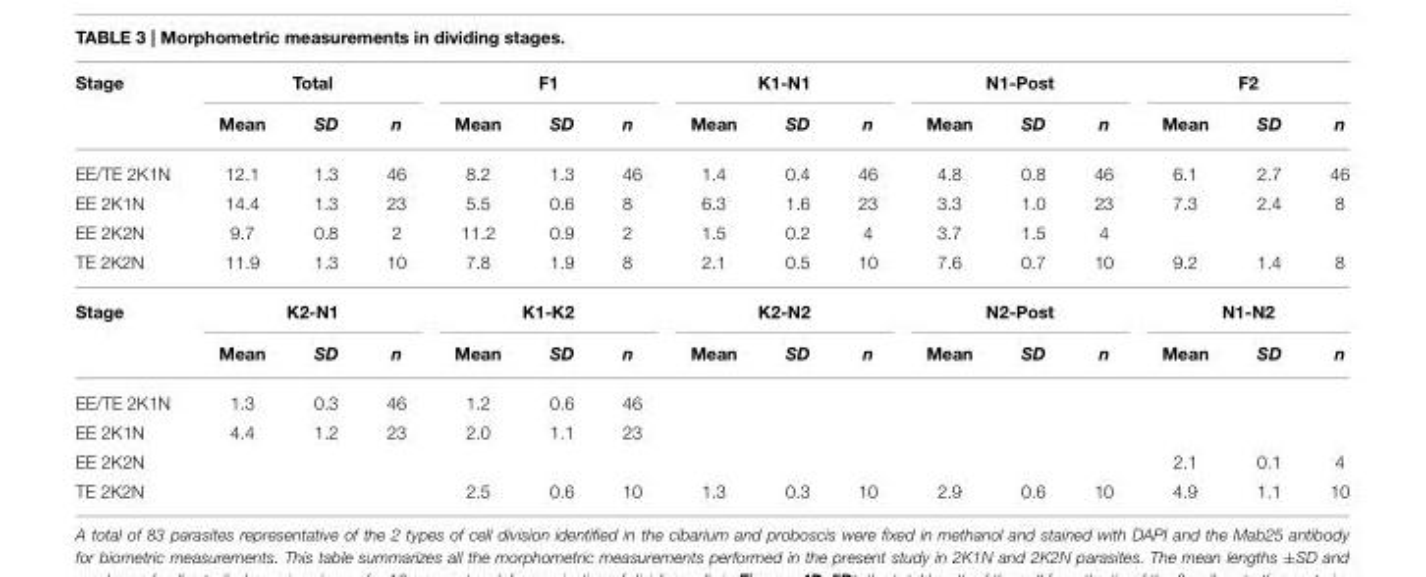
<table><thead><tr><td rowspan="2">Stage</td><td colspan="3">Total</td><td colspan="3">F1</td><td colspan="3">K1-N1</td><td colspan="3">N1-Post</td><td colspan="3">F2</td></tr><tr><td>Mean</td><td>SD</td><td>n</td><td>Mean</td><td>SD</td><td>n</td><td>Mean</td><td>SD</td><td>n</td><td>Mean</td><td>SD</td><td>n</td><td>Mean</td><td>SD</td><td>n</td></tr></thead><tbody><tr><td>EE/TE 2K1N</td><td>12.1</td><td>1.3</td><td>46</td><td>8.2</td><td>1.3</td><td>46</td><td>1.4</td><td>0.4</td><td>46</td><td>4.8</td><td>0.8</td><td>46</td><td>6.1</td><td>2.7</td><td>46</td></tr><tr><td>EE 2K1N</td><td>14.4</td><td>1.3</td><td>23</td><td>5.5</td><td>0.6</td><td>8</td><td>6.3</td><td>1.6</td><td>23</td><td>3.3</td><td>1.0</td><td>23</td><td>7.3</td><td>2.4</td><td>8</td></tr><tr><td>EE 2K2N</td><td>9.7</td><td>0.8</td><td>2</td><td>11.2</td><td>0.9</td><td>2</td><td>1.5</td><td>0.2</td><td>4</td><td>3.7</td><td>1.5</td><td>4</td><td></td><td></td><td></td></tr><tr><td>TE 2K2N</td><td>11.9</td><td>1.3</td><td>10</td><td>7.8</td><td>1.9</td><td>8</td><td>2.1</td><td>0.5</td><td>10</td><td>7.6</td><td>0.7</td><td>10</td><td>9.2</td><td>1.4</td><td>8</td></tr><tr><td rowspan="2">Stage</td><td colspan="3">K2-N1</td><td colspan="3">K1-K2</td><td colspan="3">K2-N2</td><td colspan="3">N2-Post</td><td colspan="3">N1-N2</td></tr><tr><td>Mean</td><td>SD</td><td>n</td><td>Mean</td><td>SD</td><td>n</td><td>Mean</td><td>SD</td><td>n</td><td>Mean</td><td>SD</td><td>n</td><td>Mean</td><td>SD</td><td>n</td></tr><tr><td>EE/TE 2K1N</td><td>1.3</td><td>0.3</td><td>46</td><td>1.2</td><td>0.6</td><td>46</td><td></td><td></td><td></td><td></td><td></td><td></td><td></td><td></td><td></td></tr><tr><td>EE 2K1N</td><td>4.4</td><td>1.2</td><td>23</td><td>2.0</td><td>1.1</td><td>23</td><td></td><td></td><td></td><td></td><td></td><td></td><td></td><td></td><td></td></tr><tr><td>EE 2K2N</td><td></td><td></td><td></td><td></td><td></td><td></td><td></td><td></td><td></td><td></td><td></td><td></td><td>2.1</td><td>0.1</td><td>4</td></tr><tr><td>TE 2K2N</td><td></td><td></td><td></td><td>2.5</td><td>0.6</td><td>10</td><td>1.3</td><td>0.3</td><td>10</td><td>2.9</td><td>0.6</td><td>10</td><td>4.9</td><td>1.1</td><td>10</td></tr></tbody></table>